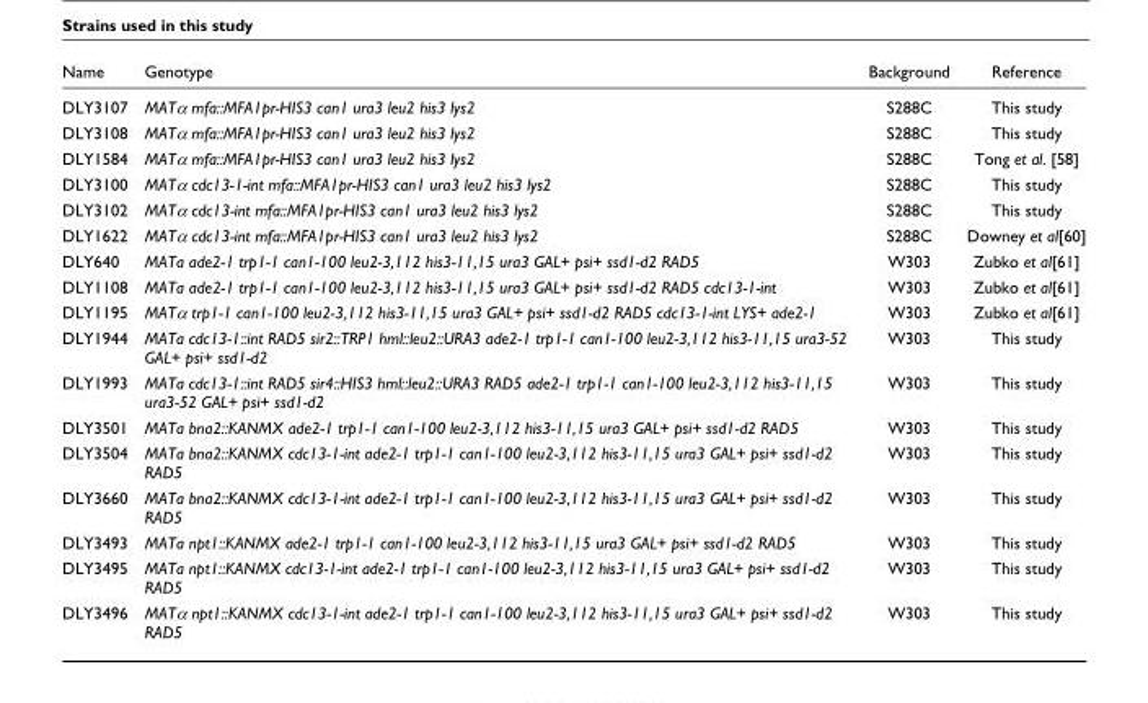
<table><thead><tr><td>Name</td><td>Genotype</td><td>Background</td><td>Reference</td></tr></thead><tbody><tr><td>DLY3107</td><td>MATα mfa::MFA1pr-HIS3 can1 ura3 leu2 his3 lys2</td><td>S288C</td><td>This study</td></tr><tr><td>DLY3108</td><td>MATα mfa::MFA1pr-HIS3 can1 ura3 leu2 his3 lys2</td><td>S288C</td><td>This study</td></tr><tr><td>DLY1584</td><td>MATα mfa::MFA1pr-HIS3 can1 ura3 leu2 his3 lys2</td><td>S288C</td><td>Tong et al. [58]</td></tr><tr><td>DLY3100</td><td>MATα cdc13-1-int mfa::MFA1pr-HIS3 can1 ura3 leu2 his3 lys2</td><td>S288C</td><td>This study</td></tr><tr><td>DLY3102</td><td>MATα cdc13-int mfa::MFA1pr-HIS3 can1 ura3 leu2 his3 lys2</td><td>S288C</td><td>This study</td></tr><tr><td>DLY1622</td><td>MATα cdc13-int mfa::MFA1pr-HIS3 can1 ura3 leu2 his3 lys2</td><td>S288C</td><td>Downey et al[60]</td></tr><tr><td>DLY640</td><td>MATa ade2-1 trp1-1 can1-100 leu2-3,112 his3-11,15 ura3 GAL+ psi+ ssd1-d2 RAD5</td><td>W303</td><td>Zubko et al[61]</td></tr><tr><td>DLY1108</td><td>MATa ade2-1 trp1-1 can1-100 leu2-3,112 his3-11,15 ura3 GAL+ psi+ ssd1-d2 RAD5 cdc13-1-int</td><td>W303</td><td>Zubko et al[61]</td></tr><tr><td>DLY1195</td><td>MATα trp1-1 can1-100 leu2-3,112 his3-11,15 ura3 GAL+ psi+ ssd1-d2 RAD5 cdc13-1-int LYS+ ade2-1</td><td>W303</td><td>Zubko et al[61]</td></tr><tr><td>DLY1944</td><td>MATa cdc13-1::int RAD5 sir2::TRP1 hml::leu2::URA3 ade2-1 trp1-1 can1-100 leu2-3,112 his3-11,15 ura3-52 GAL+ psi+ ssd1-d2</td><td>W303</td><td>This study</td></tr><tr><td>DLY1993</td><td>MATa cdc13-1::int RAD5 sir4::HIS3 hml::leu2::URA3 RAD5 ade2-1 trp1-1 can1-100 leu2-3,112 his3-11,15 ura3-52 GAL+ psi+ ssd1-d2</td><td>W303</td><td>This study</td></tr><tr><td>DLY3501</td><td>MATa bna2::KANMX ade2-1 trp1-1 can1-100 leu2-3,112 his3-11,15 ura3 GAL+ psi+ ssd1-d2 RAD5</td><td>W303</td><td>This study</td></tr><tr><td>DLY3504</td><td>MATa bna2::KANMX cdc13-1-int ade2-1 trp1-1 can1-100 leu2-3,112 his3-11,15 ura3 GAL+ psi+ ssd1-d2 RAD5</td><td>W303</td><td>This study</td></tr><tr><td>DLY3660</td><td>MATa bna2::KANMX cdc13-1-int ade2-1 trp1-1 can1-100 leu2-3,112 his3-11,15 ura3 GAL+ psi+ ssd1-d2 RAD5</td><td>W303</td><td>This study</td></tr><tr><td>DLY3493</td><td>MATa npt1::KANMX ade2-1 trp1-1 can1-100 leu2-3,112 his3-11,15 ura3 GAL+ psi+ ssd1-d2 RAD5</td><td>W303</td><td>This study</td></tr><tr><td>DLY3495</td><td>MATa npt1::KANMX cdc13-1-int ade2-1 trp1-1 can1-100 leu2-3,112 his3-11,15 ura3 GAL+ psi+ ssd1-d2 RAD5</td><td>W303</td><td>This study</td></tr><tr><td>DLY3496</td><td>MATα npt1::KANMX cdc13-1-int ade2-1 trp1-1 can1-100 leu2-3,112 his3-11,15 ura3 GAL+ psi+ ssd1-d2 RAD5</td><td>W303</td><td>This study</td></tr></tbody></table>